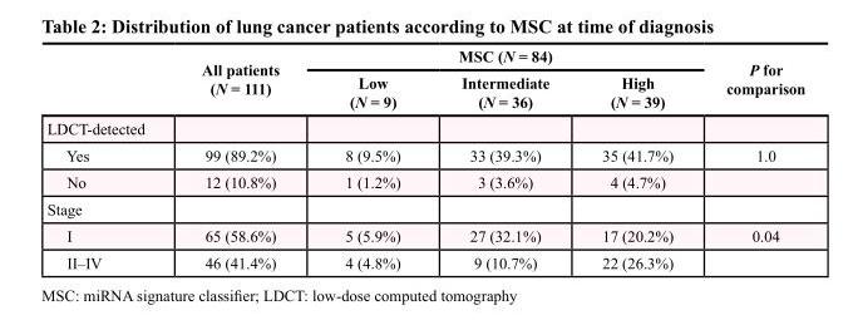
<table><thead><tr><td rowspan="2"></td><td rowspan="2">All patients (N = 111)</td><td colspan="3">MSC (N = 84)</td><td rowspan="2">P for comparison</td></tr><tr><td>Low (N = 9)</td><td>Intermediate (N = 36)</td><td>High (N = 39)</td></tr></thead><tbody><tr><td colspan="6">LDCT-detected</td></tr><tr><td>Yes</td><td>99 (89.2%)</td><td>8 (9.5%)</td><td>33 (39.3%)</td><td>35 (41.7%)</td><td>1.0</td></tr><tr><td>No</td><td>12 (10.8%)</td><td>1 (1.2%)</td><td>3 (3.6%)</td><td>4 (4.7%)</td><td></td></tr><tr><td colspan="6">Stage</td></tr><tr><td>I</td><td>65 (58.6%)</td><td>5 (5.9%)</td><td>27 (32.1%)</td><td>17 (20.2%)</td><td>0.04</td></tr><tr><td>II–IV</td><td>46 (41.4%)</td><td>4 (4.8%)</td><td>9 (10.7%)</td><td>22 (26.3%)</td><td></td></tr></tbody></table>